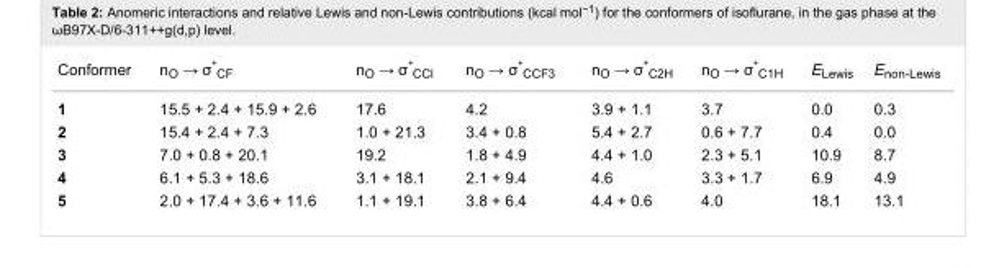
<table><tbody><tr><td>Conformer</td><td>n<sub>O</sub> → σ*<sub>CF</sub></td><td>n<sub>O</sub> → σ*<sub>CCl</sub></td><td>n<sub>O</sub> → σ*<sub>CCF3</sub></td><td>n<sub>O</sub> → σ*<sub>C2H</sub></td><td>n<sub>O</sub> → σ*<sub>C1H</sub></td><td>E<sub>Lewis</sub></td><td>E<sub>non-Lewis</sub></td></tr><tr><td>1</td><td>15.5 + 2.4 + 15.9 + 2.6</td><td>17.6</td><td>4.2</td><td>3.9 + 1.1</td><td>3.7</td><td>0.0</td><td>0.3</td></tr><tr><td>2</td><td>15.4 + 2.4 + 7.3</td><td>1.0 + 21.3</td><td>3.4 + 0.8</td><td>5.4 + 2.7</td><td>0.6 + 7.7</td><td>0.4</td><td>0.0</td></tr><tr><td>3</td><td>7.0 + 0.8 + 20.1</td><td>19.2</td><td>1.8 + 4.9</td><td>4.4 + 1.0</td><td>2.3 + 5.1</td><td>10.9</td><td>8.7</td></tr><tr><td>4</td><td>6.1 + 5.3 + 18.6</td><td>3.1 + 18.1</td><td>2.1 + 9.4</td><td>4.6</td><td>3.3 + 1.7</td><td>6.9</td><td>4.9</td></tr><tr><td>5</td><td>2.0 + 17.4 + 3.6 + 11.6</td><td>1.1 + 19.1</td><td>3.8 + 6.4</td><td>4.4 + 0.6</td><td>4.0</td><td>18.1</td><td>13.1</td></tr></tbody></table>